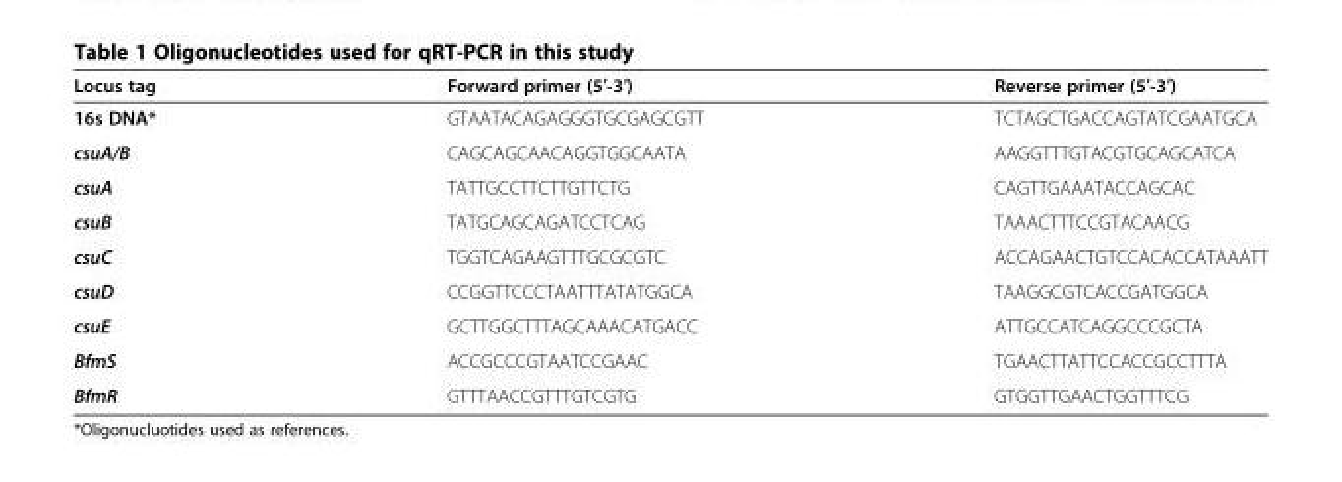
<table><thead><tr><td>Locus tag</td><td>Forward primer (5′-3′)</td><td>Reverse primer (5′-3′)</td></tr></thead><tbody><tr><td>16s DNA*</td><td>GTAATACAGAGGGTGCGAGCGTT</td><td>TCTAGCTGACCAGTATCGAATGCA</td></tr><tr><td>csuA/B</td><td>CAGCAGCAACAGGTGGCAATA</td><td>AAGGTTTGTACGTGCAGCATCA</td></tr><tr><td>csuA</td><td>TATTGCCTTCTTGTTCTG</td><td>CAGTTGAAATACCAGCAC</td></tr><tr><td>csuB</td><td>TATGCAGCAGATCCTCAG</td><td>TAAACTTTCCGTACAACG</td></tr><tr><td>csuC</td><td>TGGTCAGAAGTTTGCGCGTC</td><td>ACCAGAACTGTCCACACCATAAATT</td></tr><tr><td>csuD</td><td>CCGGTTCCCTAATTTATATGGCA</td><td>TAAGGCGTCACCGATGGCA</td></tr><tr><td>csuE</td><td>GCTTGGCTTTAGCAAACATGACC</td><td>ATTGCCATCAGGCCCGCTA</td></tr><tr><td>BfmS</td><td>ACCGCCCGTAATCCGAAC</td><td>TGAACTTATTCCACCGCCTTTA</td></tr><tr><td>BfmR</td><td>GTTTAACCGTTTGTCGTG</td><td>GTGGTTGAACTGGTTTCG</td></tr></tbody></table>